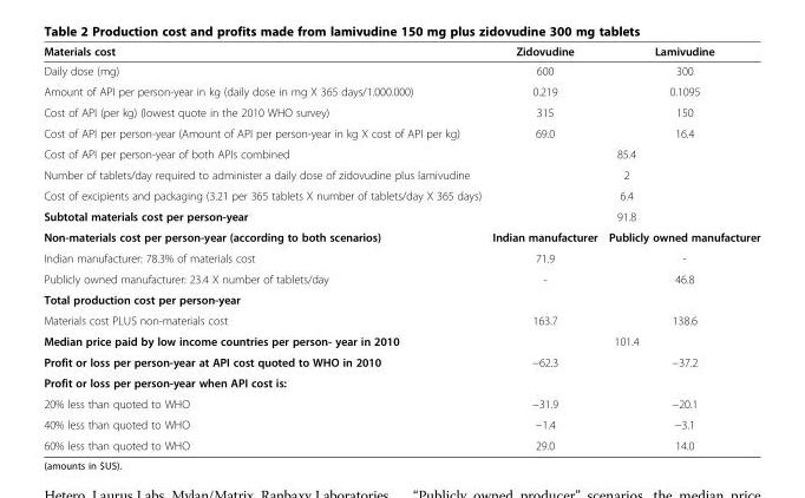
<table><thead><tr><td>Materials cost</td><td>Zidovudine</td><td>Lamivudine</td></tr></thead><tbody><tr><td>Daily dose (mg)</td><td>600</td><td>300</td></tr><tr><td>Amount of API per person-year in kg (daily dose in mg X 365 days/1.000.000)</td><td>0.219</td><td>0.1095</td></tr><tr><td>Cost of API (per kg) (lowest quote in the 2010 WHO survey)</td><td>315</td><td>150</td></tr><tr><td>Cost of API per person-year (Amount of API per person-year in kg X cost of API per kg)</td><td>69.0</td><td>16.4</td></tr><tr><td>Cost of API per person-year of both APIs combined</td><td colspan="2">85.4</td></tr><tr><td>Number of tablets/day required to administer a daily dose of zidovudine plus lamivudine</td><td colspan="2">2</td></tr><tr><td>Cost of excipients and packaging (3.21 per 365 tablets X number of tablets/day X 365 days)</td><td colspan="2">6.4</td></tr><tr><td>Subtotal materials cost per person-year</td><td colspan="2">91.8</td></tr><tr><td>Non-materials cost per person-year (according to both scenarios)</td><td>Indian manufacturer</td><td>Publicly owned manufacturer</td></tr><tr><td>Indian manufacturer: 78.3% of materials cost</td><td>71.9</td><td>-</td></tr><tr><td>Publicly owned manufacturer: 23.4 X number of tablets/day</td><td>-</td><td>46.8</td></tr><tr><td colspan="3">Total production cost per person-year</td></tr><tr><td>Materials cost PLUS non-materials cost</td><td>163.7</td><td>138.6</td></tr><tr><td>Median price paid by low income countries per person- year in 2010</td><td colspan="2">101.4</td></tr><tr><td>Profit or loss per person-year at API cost quoted to WHO in 2010</td><td>−62.3</td><td>−37.2</td></tr><tr><td colspan="3">Profit or loss per person-year when API cost is:</td></tr><tr><td>20% less than quoted to WHO</td><td>−31.9</td><td>−20.1</td></tr><tr><td>40% less than quoted to WHO</td><td>−1.4</td><td>−3.1</td></tr><tr><td>60% less than quoted to WHO</td><td>29.0</td><td>14.0</td></tr></tbody></table>